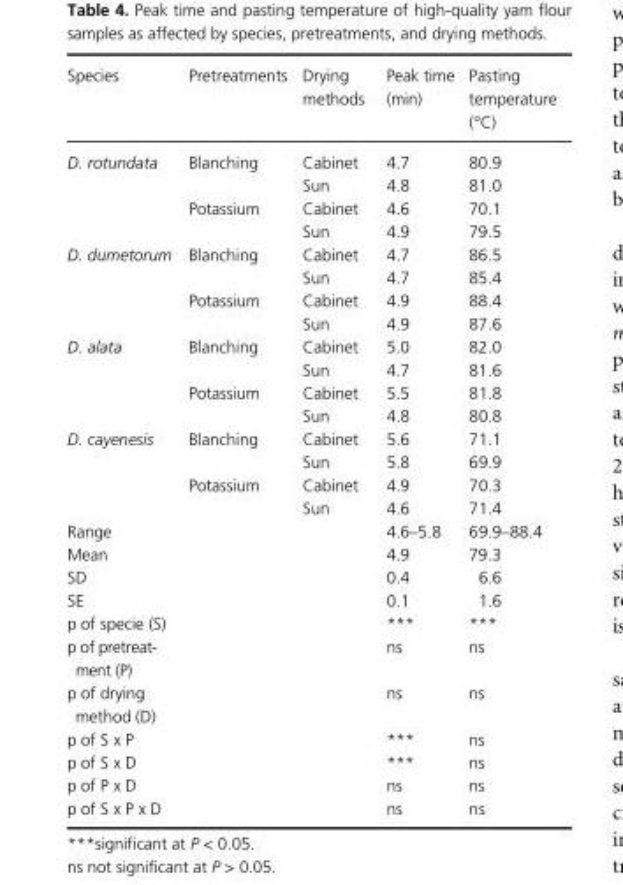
<table><thead><tr><td>Species</td><td>Pretreatments</td><td>Drying methods</td><td>Peak time (min)</td><td>Pasting temperature (°C)</td></tr></thead><tbody><tr><td rowspan="4">D. rotundata</td><td rowspan="2">Blanching</td><td>Cabinet</td><td>4.7</td><td>80.9</td></tr><tr><td>Sun</td><td>4.8</td><td>81.0</td></tr><tr><td rowspan="2">Potassium</td><td>Cabinet</td><td>4.6</td><td>70.1</td></tr><tr><td>Sun</td><td>4.9</td><td>79.5</td></tr><tr><td rowspan="4">D. dumetorum</td><td rowspan="2">Blanching</td><td>Cabinet</td><td>4.7</td><td>86.5</td></tr><tr><td>Sun</td><td>4.7</td><td>85.4</td></tr><tr><td rowspan="2">Potassium</td><td>Cabinet</td><td>4.9</td><td>88.4</td></tr><tr><td>Sun</td><td>4.9</td><td>87.6</td></tr><tr><td rowspan="4">D. alata</td><td rowspan="2">Blanching</td><td>Cabinet</td><td>5.0</td><td>82.0</td></tr><tr><td>Sun</td><td>4.7</td><td>81.6</td></tr><tr><td rowspan="2">Potassium</td><td>Cabinet</td><td>5.5</td><td>81.8</td></tr><tr><td>Sun</td><td>4.8</td><td>80.8</td></tr><tr><td rowspan="4">D. cayenesis</td><td rowspan="2">Blanching</td><td>Cabinet</td><td>5.6</td><td>71.1</td></tr><tr><td>Sun</td><td>5.8</td><td>69.9</td></tr><tr><td rowspan="2">Potassium</td><td>Cabinet</td><td>4.9</td><td>70.3</td></tr><tr><td>Sun</td><td>4.6</td><td>71.4</td></tr><tr><td>Range</td><td></td><td></td><td>4.6–5.8</td><td>69.9–88.4</td></tr><tr><td>Mean</td><td></td><td></td><td>4.9</td><td>79.3</td></tr><tr><td>SD</td><td></td><td></td><td>0.4</td><td>6.6</td></tr><tr><td>SE</td><td></td><td></td><td>0.1</td><td>1.6</td></tr><tr><td>p of specie (S)</td><td></td><td></td><td>***</td><td>***</td></tr><tr><td>p of pretreat- ment (P)</td><td></td><td></td><td>ns</td><td>ns</td></tr><tr><td>p of drying method (D)</td><td></td><td></td><td>ns</td><td>ns</td></tr><tr><td>p of S x P</td><td></td><td></td><td>***</td><td>ns</td></tr><tr><td>p of S x D</td><td></td><td></td><td>***</td><td>ns</td></tr><tr><td>p of P x D</td><td></td><td></td><td>ns</td><td>ns</td></tr><tr><td>p of S x P x D</td><td></td><td></td><td>ns</td><td>ns</td></tr></tbody></table>